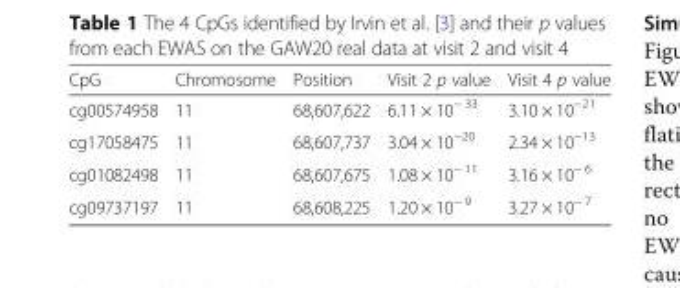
<table><thead><tr><td>CpG</td><td>Chromosome</td><td>Position</td><td>Visit 2 p value</td><td>Visit 4 p value</td></tr></thead><tbody><tr><td>cg00574958</td><td>11</td><td>68,607,622</td><td>6.11 × 10<sup>− 33</sup></td><td>3.10 × 10<sup>−21</sup></td></tr><tr><td>cg17058475</td><td>11</td><td>68,607,737</td><td>3.04 × 10<sup>−20</sup></td><td>2.34 × 10<sup>−13</sup></td></tr><tr><td>cg01082498</td><td>11</td><td>68,607,675</td><td>1.08 × 10<sup>− 11</sup></td><td>3.16 × 10<sup>− 6</sup></td></tr><tr><td>cg09737197</td><td>11</td><td>68,608,225</td><td>1.20 × 10<sup>− 9</sup></td><td>3.27 × 10<sup>− 7</sup></td></tr></tbody></table>